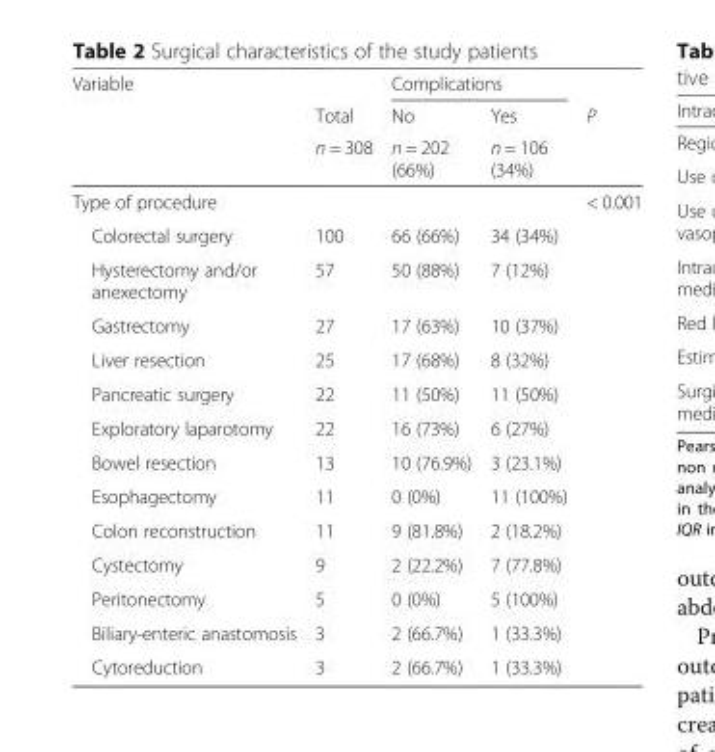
<table><thead><tr><td rowspan="3">Variable</td><td rowspan="3">Total n = 308</td><td colspan="2">Complications</td><td rowspan="3">P</td></tr><tr><td rowspan="2">No n = 202 (66%)</td><td rowspan="2">Yes n = 106 (34%)</td></tr><tr></tr></thead><tbody><tr><td>Type of procedure</td><td></td><td></td><td></td><td>&lt; 0.001</td></tr><tr><td>Colorectal surgery</td><td>100</td><td>66 (66%)</td><td>34 (34%)</td><td></td></tr><tr><td>Hysterectomy and/or anexectomy</td><td>57</td><td>50 (88%)</td><td>7 (12%)</td><td></td></tr><tr><td>Gastrectomy</td><td>27</td><td>17 (63%)</td><td>10 (37%)</td><td></td></tr><tr><td>Liver resection</td><td>25</td><td>17 (68%)</td><td>8 (32%)</td><td></td></tr><tr><td>Pancreatic surgery</td><td>22</td><td>11 (50%)</td><td>11 (50%)</td><td></td></tr><tr><td>Exploratory laparotomy</td><td>22</td><td>16 (73%)</td><td>6 (27%)</td><td></td></tr><tr><td>Bowel resection</td><td>13</td><td>10 (76.9%)</td><td>3 (23.1%)</td><td></td></tr><tr><td>Esophagectomy</td><td>11</td><td>0 (0%)</td><td>11 (100%)</td><td></td></tr><tr><td>Colon reconstruction</td><td>11</td><td>9 (81.8%)</td><td>2 (18.2%)</td><td></td></tr><tr><td>Cystectomy</td><td>9</td><td>2 (22.2%)</td><td>7 (77.8%)</td><td></td></tr><tr><td>Peritonectomy</td><td>5</td><td>0 (0%)</td><td>5 (100%)</td><td></td></tr><tr><td>Biliary-enteric anastomosis</td><td>3</td><td>2 (66.7%)</td><td>1 (33.3%)</td><td></td></tr><tr><td>Cytoreduction</td><td>3</td><td>2 (66.7%)</td><td>1 (33.3%)</td><td></td></tr></tbody></table>